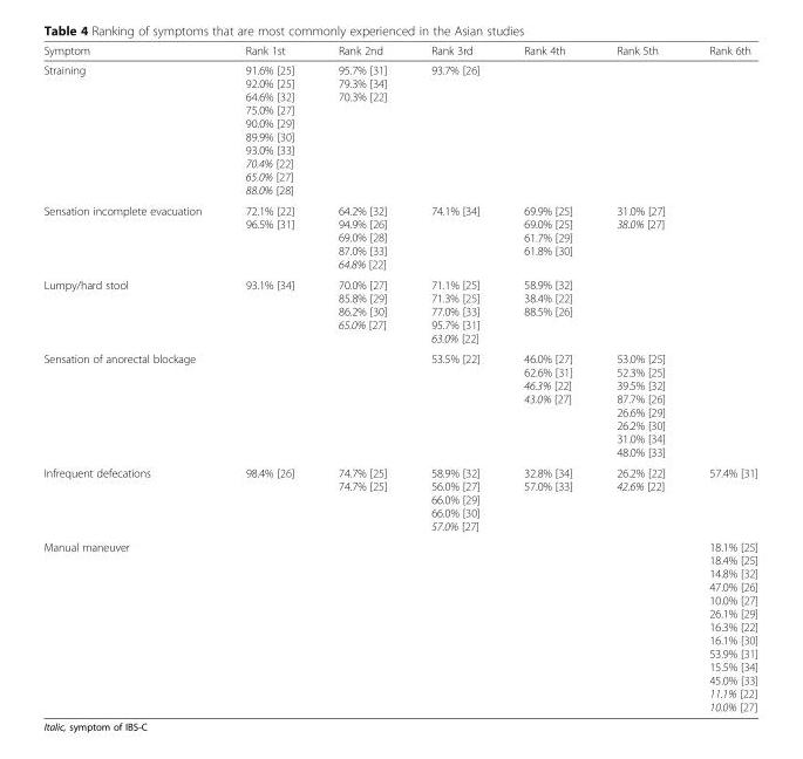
<table><thead><tr><td>Symptom</td><td>Rank 1st</td><td>Rank 2nd</td><td>Rank 3rd</td><td>Rank 4th</td><td>Rank 5th</td><td>Rank 6th</td></tr></thead><tbody><tr><td>Straining</td><td>91.6% [25] 92.0% [25] 64.6% [32] 75.0% [27] 90.0% [29] 89.9% [30] 93.0% [33] 70.4% [22] 65.0% [27] 88.0% [28]</td><td>95.7% [31] 79.3% [34] 70.3% [22]</td><td>93.7% [26]</td><td></td><td></td><td></td></tr><tr><td>Sensation incomplete evacuation</td><td>72.1% [22] 96.5% [31]</td><td>64.2% [32] 94.9% [26] 69.0% [28] 87.0% [33] 64.8% [22]</td><td>74.1% [34]</td><td>69.9% [25] 69.0% [25] 61.7% [29] 61.8% [30]</td><td>31.0% [27] 38.0% [27]</td><td></td></tr><tr><td>Lumpy/hard stool</td><td>93.1% [34]</td><td>70.0% [27] 85.8% [29] 86.2% [30] 65.0% [27]</td><td>71.1% [25] 71.3% [25] 77.0% [33] 95.7% [31] 63.0% [22]</td><td>58.9% [32] 38.4% [22] 88.5% [26]</td><td></td><td></td></tr><tr><td>Sensation of anorectal blockage</td><td></td><td></td><td>53.5% [22]</td><td>46.0% [27] 62.6% [31] 46.3% [22] 43.0% [27]</td><td>53.0% [25] 52.3% [25] 39.5% [32] 87.7% [26] 26.6% [29] 26.2% [30] 31.0% [34] 48.0% [33]</td><td></td></tr><tr><td>Infrequent defecations</td><td>98.4% [26]</td><td>74.7% [25] 74.7% [25]</td><td>58.9% [32] 56.0% [27] 66.0% [29] 66.0% [30] 57.0% [27]</td><td>32.8% [34] 57.0% [33]</td><td>26.2% [22] 42.6% [22]</td><td>57.4% [31]</td></tr><tr><td>Manual maneuver</td><td></td><td></td><td></td><td></td><td></td><td>18.1% [25] 18.4% [25] 14.8% [32] 47.0% [26] 10.0% [27] 26.1% [29] 16.3% [22] 16.1% [30] 53.9% [31] 15.5% [34] 45.0% [33] 11.1% [22] 10.0% [27]</td></tr></tbody></table>